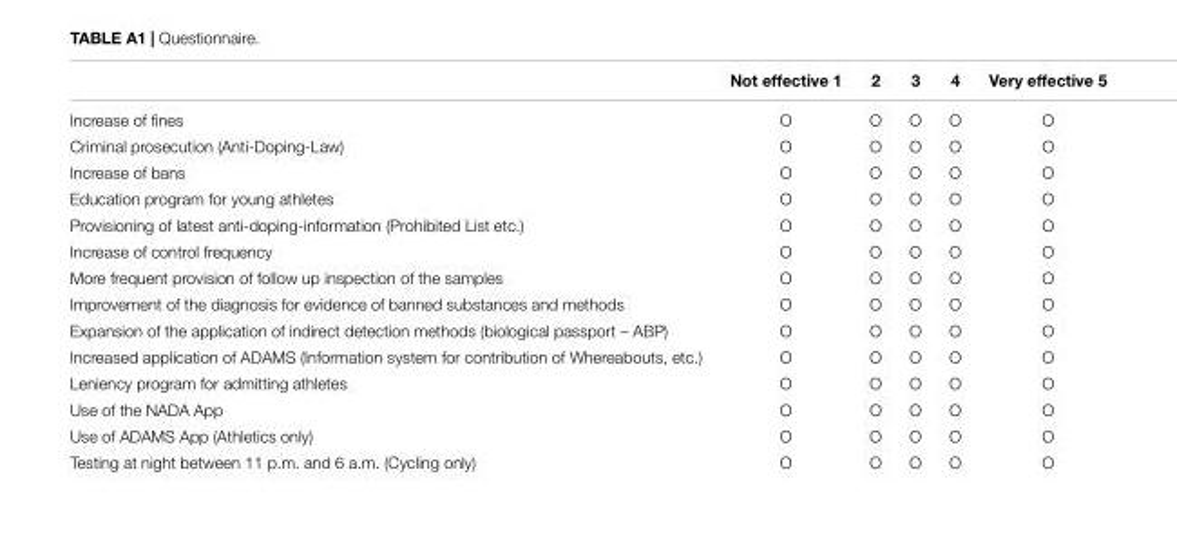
<table><thead><tr><td></td><td>Not effective 1</td><td>2</td><td>3</td><td>4</td><td>Very effective 5</td></tr></thead><tbody><tr><td>Increase of fines</td><td>O</td><td>O</td><td>O</td><td>O</td><td>O</td></tr><tr><td>Criminal prosecution (Anti-Doping-Law)</td><td>O</td><td>O</td><td>O</td><td>O</td><td>O</td></tr><tr><td>Increase of bans</td><td>O</td><td>O</td><td>O</td><td>O</td><td>O</td></tr><tr><td>Education program for young athletes</td><td>O</td><td>O</td><td>O</td><td>O</td><td>O</td></tr><tr><td>Provisioning of latest anti-doping-information (Prohibited List etc.)</td><td>O</td><td>O</td><td>O</td><td>O</td><td>O</td></tr><tr><td>Increase of control frequency</td><td>O</td><td>O</td><td>O</td><td>O</td><td>O</td></tr><tr><td>More frequent provision of follow up inspection of the samples</td><td>O</td><td>O</td><td>O</td><td>O</td><td>O</td></tr><tr><td>Improvement of the diagnosis for evidence of banned substances and methods</td><td>O</td><td>O</td><td>O</td><td>O</td><td>O</td></tr><tr><td>Expansion of the application of indirect detection methods (biological passport – ABP)</td><td>O</td><td>O</td><td>O</td><td>O</td><td>O</td></tr><tr><td>Increased application of ADAMS (Information system for contribution of Whereabouts, etc.)</td><td>O</td><td>O</td><td>O</td><td>O</td><td>O</td></tr><tr><td>Leniency program for admitting athletes</td><td>O</td><td>O</td><td>O</td><td>O</td><td>O</td></tr><tr><td>Use of the NADA App</td><td>O</td><td>O</td><td>O</td><td>O</td><td>O</td></tr><tr><td>Use of ADAMS App (Athletics only)</td><td>O</td><td>O</td><td>O</td><td>O</td><td>O</td></tr><tr><td>Testing at night between 11 p.m. and 6 a.m. (Cycling only)</td><td>O</td><td>O</td><td>O</td><td>O</td><td>O</td></tr></tbody></table>